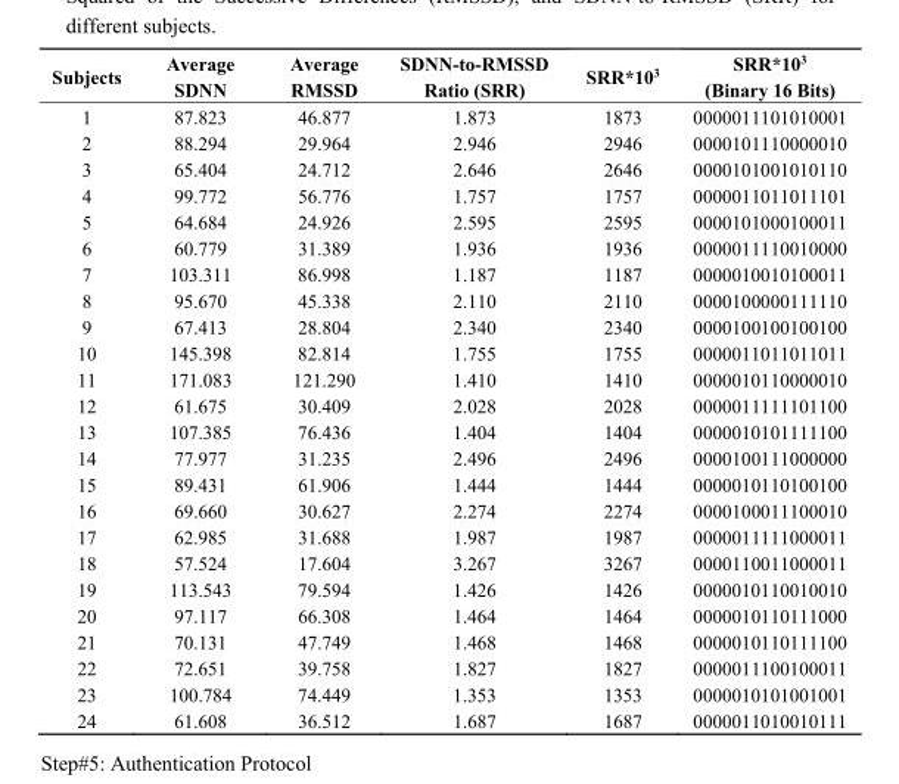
<table><thead><tr><td>Subjects</td><td>Average SDNN</td><td>Average RMSSD</td><td>SDNN-to-RMSSD Ratio (SRR)</td><td>SRR*10<sup>3</sup></td><td>SRR*10<sup>3</sup> (Binary 16 Bits)</td></tr></thead><tbody><tr><td>1</td><td>87.823</td><td>46.877</td><td>1.873</td><td>1873</td><td>0000011101010001</td></tr><tr><td>2</td><td>88.294</td><td>29.964</td><td>2.946</td><td>2946</td><td>0000101110000010</td></tr><tr><td>3</td><td>65.404</td><td>24.712</td><td>2.646</td><td>2646</td><td>0000101001010110</td></tr><tr><td>4</td><td>99.772</td><td>56.776</td><td>1.757</td><td>1757</td><td>0000011011011101</td></tr><tr><td>5</td><td>64.684</td><td>24.926</td><td>2.595</td><td>2595</td><td>0000101000100011</td></tr><tr><td>6</td><td>60.779</td><td>31.389</td><td>1.936</td><td>1936</td><td>0000011110010000</td></tr><tr><td>7</td><td>103.311</td><td>86.998</td><td>1.187</td><td>1187</td><td>0000010010100011</td></tr><tr><td>8</td><td>95.670</td><td>45.338</td><td>2.110</td><td>2110</td><td>0000100000111110</td></tr><tr><td>9</td><td>67.413</td><td>28.804</td><td>2.340</td><td>2340</td><td>0000100100100100</td></tr><tr><td>10</td><td>145.398</td><td>82.814</td><td>1.755</td><td>1755</td><td>0000011011011011</td></tr><tr><td>11</td><td>171.083</td><td>121.290</td><td>1.410</td><td>1410</td><td>0000010110000010</td></tr><tr><td>12</td><td>61.675</td><td>30.409</td><td>2.028</td><td>2028</td><td>0000011111101100</td></tr><tr><td>13</td><td>107.385</td><td>76.436</td><td>1.404</td><td>1404</td><td>0000010101111100</td></tr><tr><td>14</td><td>77.977</td><td>31.235</td><td>2.496</td><td>2496</td><td>0000100111000000</td></tr><tr><td>15</td><td>89.431</td><td>61.906</td><td>1.444</td><td>1444</td><td>0000010110100100</td></tr><tr><td>16</td><td>69.660</td><td>30.627</td><td>2.274</td><td>2274</td><td>0000100011100010</td></tr><tr><td>17</td><td>62.985</td><td>31.688</td><td>1.987</td><td>1987</td><td>0000011111000011</td></tr><tr><td>18</td><td>57.524</td><td>17.604</td><td>3.267</td><td>3267</td><td>0000110011000011</td></tr><tr><td>19</td><td>113.543</td><td>79.594</td><td>1.426</td><td>1426</td><td>0000010110010010</td></tr><tr><td>20</td><td>97.117</td><td>66.308</td><td>1.464</td><td>1464</td><td>0000010110111000</td></tr><tr><td>21</td><td>70.131</td><td>47.749</td><td>1.468</td><td>1468</td><td>0000010110111100</td></tr><tr><td>22</td><td>72.651</td><td>39.758</td><td>1.827</td><td>1827</td><td>0000011100100011</td></tr><tr><td>23</td><td>100.784</td><td>74.449</td><td>1.353</td><td>1353</td><td>0000010101001001</td></tr><tr><td>24</td><td>61.608</td><td>36.512</td><td>1.687</td><td>1687</td><td>0000011010010111</td></tr></tbody></table>